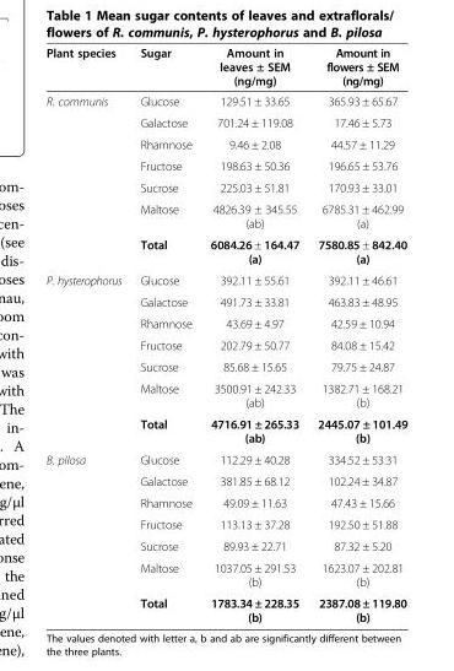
<table><thead><tr><td>Plant species</td><td>Sugar</td><td>Amount in leaves ± SEM (ng/mg)</td><td>Amount in flowers ± SEM (ng/mg)</td></tr></thead><tbody><tr><td rowspan="7">R. communis</td><td>Glucose</td><td>129.51 ± 33.65</td><td>365.93 ± 65.67</td></tr><tr><td>Galactose</td><td>701.24 ± 119.08</td><td>17.46 ± 5.73</td></tr><tr><td>Rhamnose</td><td>9.46 ± 2.08</td><td>44.57 ± 11.29</td></tr><tr><td>Fructose</td><td>198.63 ± 50.36</td><td>196.65 ± 53.76</td></tr><tr><td>Sucrose</td><td>225.03 ± 51.81</td><td>170.93 ± 33.01</td></tr><tr><td>Maltose</td><td>4826.39 ± 345.55 (ab)</td><td>6785.31 ± 462.99 (a)</td></tr><tr><td>Total</td><td>6084.26 ± 164.47 (a)</td><td>7580.85 ± 842.40 (a)</td></tr><tr><td rowspan="7">P. hysterophorus</td><td>Glucose</td><td>392.11 ± 55.61</td><td>392.11 ± 46.61</td></tr><tr><td>Galactose</td><td>491.73 ± 33.81</td><td>463.83 ± 48.95</td></tr><tr><td>Rhamnose</td><td>43.69 ± 4.97</td><td>42.59 ± 10.94</td></tr><tr><td>Fructose</td><td>202.79 ± 50.77</td><td>84.08 ± 15.42</td></tr><tr><td>Sucrose</td><td>85.68 ± 15.65</td><td>79.75 ± 24.87</td></tr><tr><td>Maltose</td><td>3500.91 ± 242.33 (ab)</td><td>1382.71 ± 168.21 (b)</td></tr><tr><td>Total</td><td>4716.91 ± 265.33 (ab)</td><td>2445.07 ± 101.49 (b)</td></tr><tr><td rowspan="7">B. pilosa</td><td>Glucose</td><td>112.29 ± 40.28</td><td>334.52 ± 53.31</td></tr><tr><td>Galactose</td><td>381.85 ± 68.12</td><td>102.24 ± 34.87</td></tr><tr><td>Rhamnose</td><td>49.09 ± 11.63</td><td>47.43 ± 15.66</td></tr><tr><td>Fructose</td><td>113.13 ± 37.28</td><td>192.50 ± 51.88</td></tr><tr><td>Sucrose</td><td>89.93 ± 22.71</td><td>87.32 ± 5.20</td></tr><tr><td>Maltose</td><td>1037.05 ± 291.53 (b)</td><td>1623.07 ± 202.81 (b)</td></tr><tr><td>Total</td><td>1783.34 ± 228.35 (b)</td><td>2387.08 ± 119.80 (b)</td></tr></tbody></table>